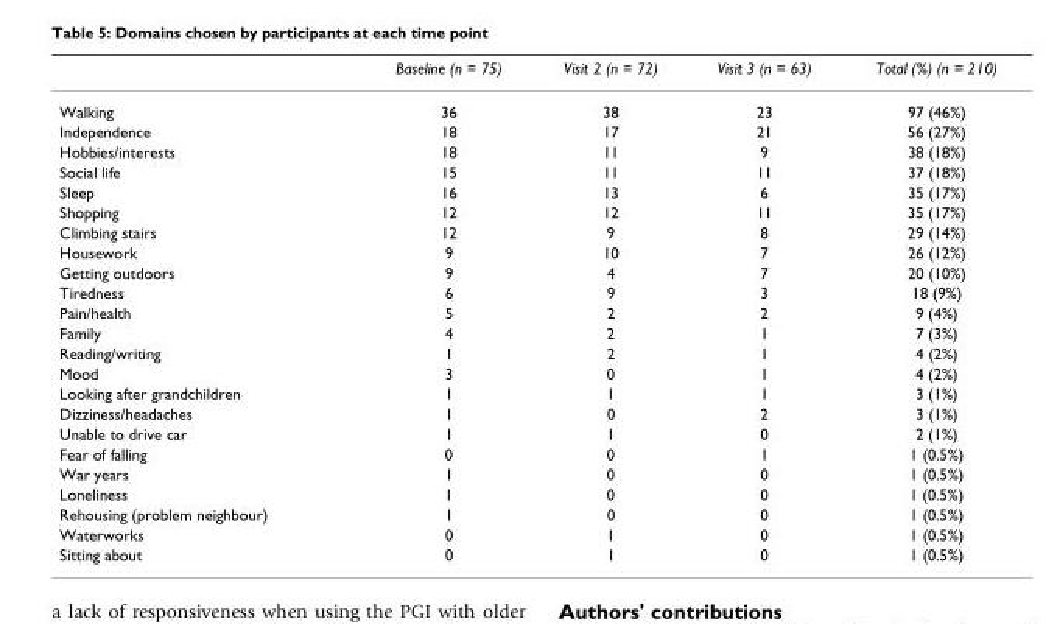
<table><thead><tr><td></td><td>Baseline (n = 75)</td><td>Visit 2 (n = 72)</td><td>Visit 3 (n = 63)</td><td>Total (%) (n = 210)</td></tr></thead><tbody><tr><td>Walking</td><td>36</td><td>38</td><td>23</td><td>97 (46%)</td></tr><tr><td>Independence</td><td>18</td><td>17</td><td>21</td><td>56 (27%)</td></tr><tr><td>Hobbies/interests</td><td>18</td><td>11</td><td>9</td><td>38 (18%)</td></tr><tr><td>Social life</td><td>15</td><td>11</td><td>11</td><td>37 (18%)</td></tr><tr><td>Sleep</td><td>16</td><td>13</td><td>6</td><td>35 (17%)</td></tr><tr><td>Shopping</td><td>12</td><td>12</td><td>11</td><td>35 (17%)</td></tr><tr><td>Climbing stairs</td><td>12</td><td>9</td><td>8</td><td>29 (14%)</td></tr><tr><td>Housework</td><td>9</td><td>10</td><td>7</td><td>26 (12%)</td></tr><tr><td>Getting outdoors</td><td>9</td><td>4</td><td>7</td><td>20 (10%)</td></tr><tr><td>Tiredness</td><td>6</td><td>9</td><td>3</td><td>18 (9%)</td></tr><tr><td>Pain/health</td><td>5</td><td>2</td><td>2</td><td>9 (4%)</td></tr><tr><td>Family</td><td>4</td><td>2</td><td>1</td><td>7 (3%)</td></tr><tr><td>Reading/writing</td><td>1</td><td>2</td><td>1</td><td>4 (2%)</td></tr><tr><td>Mood</td><td>3</td><td>0</td><td>1</td><td>4 (2%)</td></tr><tr><td>Looking after grandchildren</td><td>1</td><td>1</td><td>1</td><td>3 (1%)</td></tr><tr><td>Dizziness/headaches</td><td>1</td><td>0</td><td>2</td><td>3 (1%)</td></tr><tr><td>Unable to drive car</td><td>1</td><td>1</td><td>0</td><td>2 (1%)</td></tr><tr><td>Fear of falling</td><td>0</td><td>0</td><td>1</td><td>1 (0.5%)</td></tr><tr><td>War years</td><td>1</td><td>0</td><td>0</td><td>1 (0.5%)</td></tr><tr><td>Loneliness</td><td>1</td><td>0</td><td>0</td><td>1 (0.5%)</td></tr><tr><td>Rehousing (problem neighbour)</td><td>1</td><td>0</td><td>0</td><td>1 (0.5%)</td></tr><tr><td>Waterworks</td><td>0</td><td>1</td><td>0</td><td>1 (0.5%)</td></tr><tr><td>Sitting about</td><td>0</td><td>1</td><td>0</td><td>1 (0.5%)</td></tr></tbody></table>